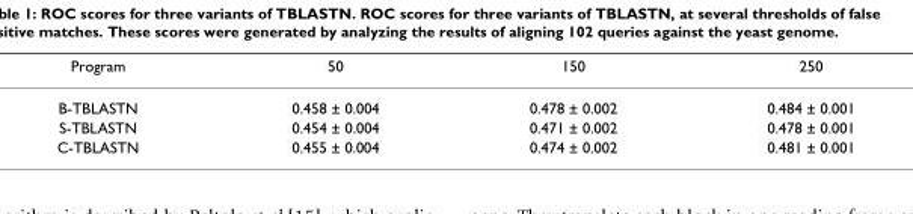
<table><thead><tr><td>Program</td><td>50</td><td>150</td><td>250</td></tr></thead><tbody><tr><td>B-TBLASTN</td><td>0.458 ± 0.004</td><td>0.478 ± 0.002</td><td>0.484 ± 0.001</td></tr><tr><td>S-TBLASTN</td><td>0.454 ± 0.004</td><td>0.471 ± 0.002</td><td>0.478 ± 0.001</td></tr><tr><td>C-TBLASTN</td><td>0.455 ± 0.004</td><td>0.474 ± 0.002</td><td>0.481 ± 0.001</td></tr></tbody></table>